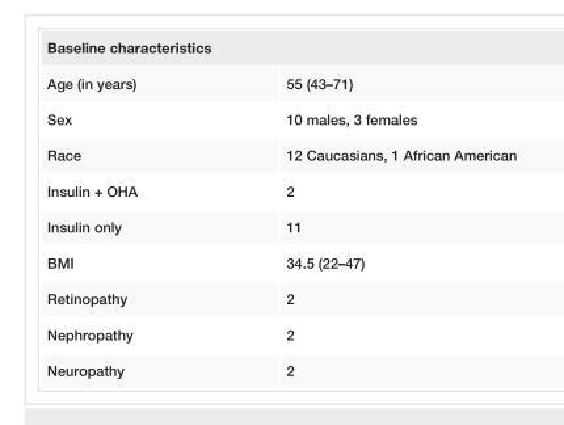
<table><tbody><tr><td colspan="2">Baseline characteristics</td></tr><tr><td>Age (in years)</td><td>55 (43–71)</td></tr><tr><td>Sex</td><td>10 males, 3 females</td></tr><tr><td>Race</td><td>12 Caucasians, 1 African American</td></tr><tr><td>Insulin + OHA</td><td>2</td></tr><tr><td>Insulin only</td><td>11</td></tr><tr><td>BMI</td><td>34.5 (22–47)</td></tr><tr><td>Retinopathy</td><td>2</td></tr><tr><td>Nephropathy</td><td>2</td></tr><tr><td>Neuropathy</td><td>2</td></tr></tbody></table>